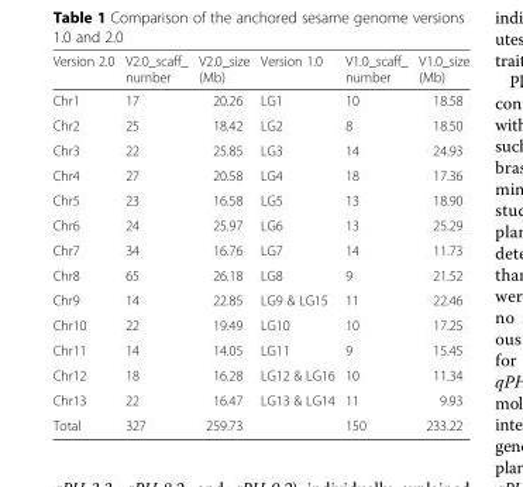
<table><thead><tr><td>Version 2.0</td><td>V2.0_scaff_ number</td><td>V2.0_size (Mb)</td><td>Version 1.0</td><td>V1.0_scaff_ number</td><td>V1.0_size (Mb)</td></tr></thead><tbody><tr><td>Chr1</td><td>17</td><td>20.26</td><td>LG1</td><td>10</td><td>18.58</td></tr><tr><td>Chr2</td><td>25</td><td>18.42</td><td>LG2</td><td>8</td><td>18.50</td></tr><tr><td>Chr3</td><td>22</td><td>25.85</td><td>LG3</td><td>14</td><td>24.93</td></tr><tr><td>Chr4</td><td>27</td><td>20.58</td><td>LG4</td><td>18</td><td>17.36</td></tr><tr><td>Chr5</td><td>23</td><td>16.58</td><td>LG5</td><td>13</td><td>18.90</td></tr><tr><td>Chr6</td><td>24</td><td>25.97</td><td>LG6</td><td>13</td><td>25.29</td></tr><tr><td>Chr7</td><td>34</td><td>16.76</td><td>LG7</td><td>14</td><td>11.73</td></tr><tr><td>Chr8</td><td>65</td><td>26.18</td><td>LG8</td><td>9</td><td>21.52</td></tr><tr><td>Chr9</td><td>14</td><td>22.85</td><td>LG9 &amp; LG15</td><td>11</td><td>22.46</td></tr><tr><td>Chr10</td><td>22</td><td>19.49</td><td>LG10</td><td>10</td><td>17.25</td></tr><tr><td>Chr11</td><td>14</td><td>14.05</td><td>LG11</td><td>9</td><td>15.45</td></tr><tr><td>Chr12</td><td>18</td><td>16.28</td><td>LG12 &amp; LG16</td><td>10</td><td>11.34</td></tr><tr><td>Chr13</td><td>22</td><td>16.47</td><td>LG13 &amp; LG14</td><td>11</td><td>9.93</td></tr><tr><td>Total</td><td>327</td><td>259.73</td><td></td><td>150</td><td>233.22</td></tr></tbody></table>